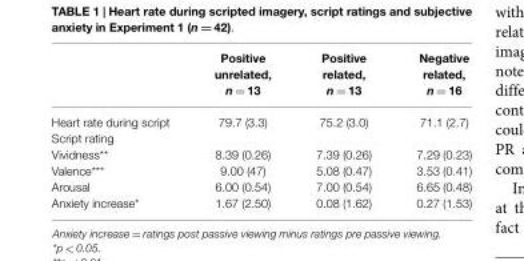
<table><thead><tr><td></td><td>Positive unrelated, n = 13</td><td>Positive related, n = 13</td><td>Negative related, n = 16</td></tr></thead><tbody><tr><td>Heart rate during script</td><td>79.7 (3.3)</td><td>75.2 (3.0)</td><td>71.1 (2.7)</td></tr><tr><td colspan="4">Script rating</td></tr><tr><td>Vividness**</td><td>8.39 (0.26)</td><td>7.39 (0.26)</td><td>7.29 (0.23)</td></tr><tr><td>Valence***</td><td>9.00 (47)</td><td>5.08 (0.47)</td><td>3.53 (0.41)</td></tr><tr><td>Arousal</td><td>6.00 (0.54)</td><td>7.00 (0.54)</td><td>6.65 (0.48)</td></tr><tr><td>Anxiety increase*</td><td>1.67 (2.50)</td><td>0.08 (1.62)</td><td>0.27 (1.53)</td></tr></tbody></table>